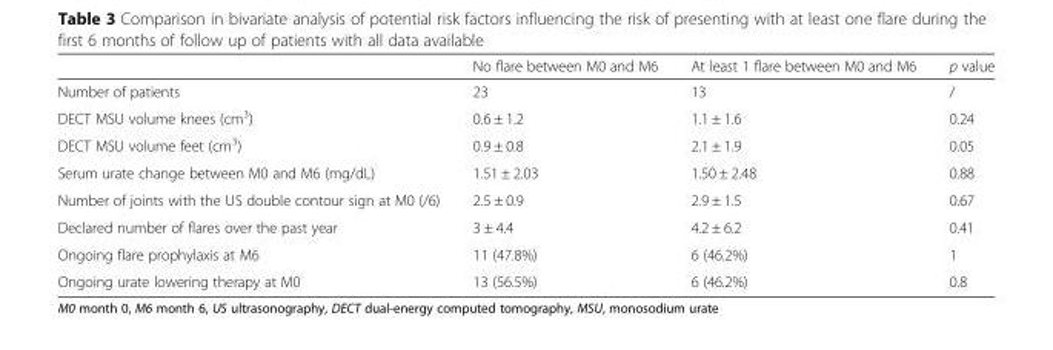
<table><thead><tr><td></td><td>No flare between M0 and M6</td><td>At least 1 flare between M0 and M6</td><td>p value</td></tr></thead><tbody><tr><td>Number of patients</td><td>23</td><td>13</td><td>/</td></tr><tr><td>DECT MSU volume knees (cm<sup>3</sup>)</td><td>0.6 ± 1.2</td><td>1.1 ± 1.6</td><td>0.24</td></tr><tr><td>DECT MSU volume feet (cm<sup>3</sup>)</td><td>0.9 ± 0.8</td><td>2.1 ± 1.9</td><td>0.05</td></tr><tr><td>Serum urate change between M0 and M6 (mg/dL)</td><td>1.51 ± 2.03</td><td>1.50 ± 2.48</td><td>0.88</td></tr><tr><td>Number of joints with the US double contour sign at M0 (/6)</td><td>2.5 ± 0.9</td><td>2.9 ± 1.5</td><td>0.67</td></tr><tr><td>Declared number of flares over the past year</td><td>3 ± 4.4</td><td>4.2 ± 6.2</td><td>0.41</td></tr><tr><td>Ongoing flare prophylaxis at M6</td><td>11 (47.8%)</td><td>6 (46.2%)</td><td>1</td></tr><tr><td>Ongoing urate lowering therapy at M0</td><td>13 (56.5%)</td><td>6 (46.2%)</td><td>0.8</td></tr></tbody></table>